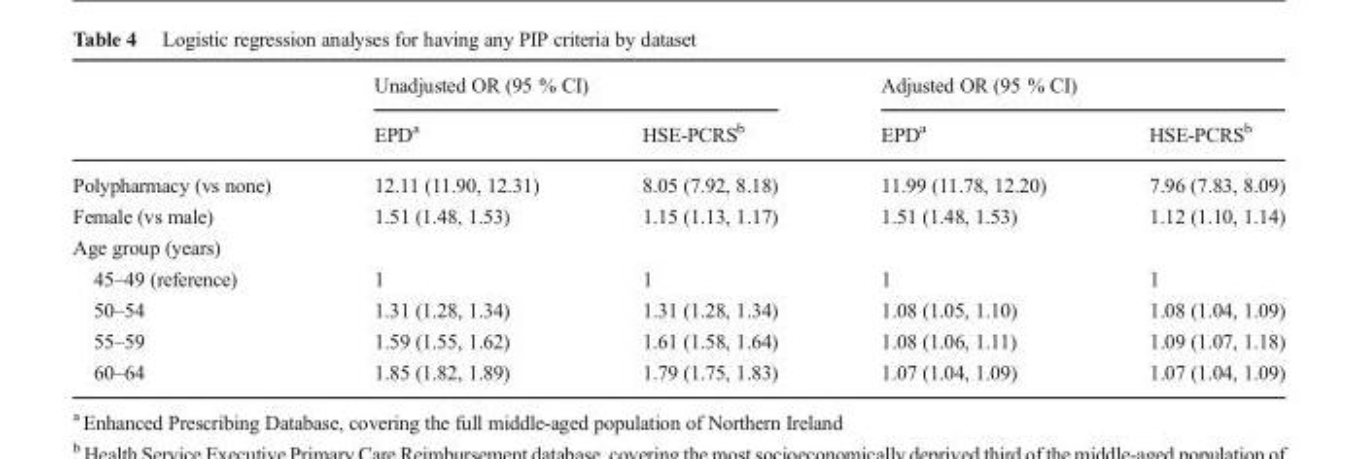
<table><thead><tr><td rowspan="2"></td><td colspan="2">Unadjusted OR (95 % CI)</td><td colspan="2">Adjusted OR (95 % CI)</td></tr><tr><td>EPD<sup>a</sup></td><td>HSE-PCRS<sup>b</sup></td><td>EPD<sup>a</sup></td><td>HSE-PCRS<sup>b</sup></td></tr></thead><tbody><tr><td>Polypharmacy (vs none)</td><td>12.11 (11.90, 12.31)</td><td>8.05 (7.92, 8.18)</td><td>11.99 (11.78, 12.20)</td><td>7.96 (7.83, 8.09)</td></tr><tr><td>Female (vs male)</td><td>1.51 (1.48, 1.53)</td><td>1.15 (1.13, 1.17)</td><td>1.51 (1.48, 1.53)</td><td>1.12 (1.10, 1.14)</td></tr><tr><td colspan="5">Age group (years)</td></tr><tr><td>45–49 (reference)</td><td>1</td><td>1</td><td>1</td><td>1</td></tr><tr><td>50–54</td><td>1.31 (1.28, 1.34)</td><td>1.31 (1.28, 1.34)</td><td>1.08 (1.05, 1.10)</td><td>1.08 (1.04, 1.09)</td></tr><tr><td>55–59</td><td>1.59 (1.55, 1.62)</td><td>1.61 (1.58, 1.64)</td><td>1.08 (1.06, 1.11)</td><td>1.09 (1.07, 1.18)</td></tr><tr><td>60–64</td><td>1.85 (1.82, 1.89)</td><td>1.79 (1.75, 1.83)</td><td>1.07 (1.04, 1.09)</td><td>1.07 (1.04, 1.09)</td></tr></tbody></table>